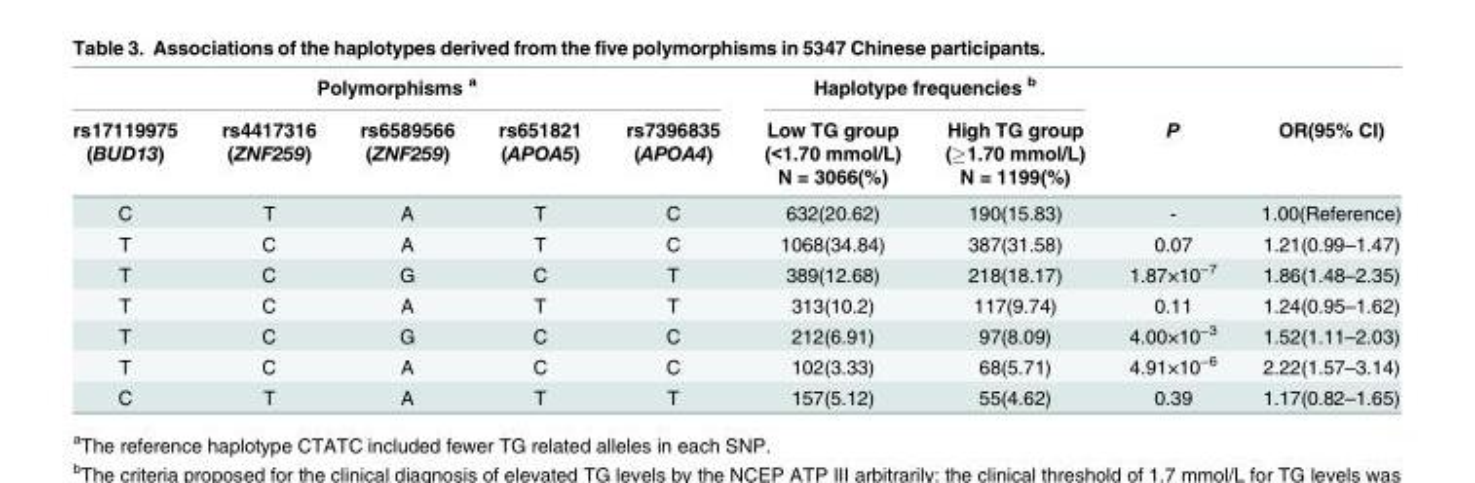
<table><thead><tr><td colspan="5">Polymorphisms <sup>a</sup></td><td colspan="2">Haplotype frequencies <sup>b</sup></td><td rowspan="2">P</td><td rowspan="2">OR(95% CI)</td></tr><tr><td>rs17119975 (BUD13)</td><td>rs4417316 (ZNF259)</td><td>rs6589566 (ZNF259)</td><td>rs651821 (APOA5)</td><td>rs7396835 (APOA4)</td><td>Low TG group (&lt;1.70 mmol/L) N = 3066(%)</td><td>High TG group (≥1.70 mmol/L) N = 1199(%)</td></tr></thead><tbody><tr><td>C</td><td>T</td><td>A</td><td>T</td><td>C</td><td>632(20.62)</td><td>190(15.83)</td><td>-</td><td>1.00(Reference)</td></tr><tr><td>T</td><td>C</td><td>A</td><td>T</td><td>C</td><td>1068(34.84)</td><td>387(31.58)</td><td>0.07</td><td>1.21(0.99–1.47)</td></tr><tr><td>T</td><td>C</td><td>G</td><td>C</td><td>T</td><td>389(12.68)</td><td>218(18.17)</td><td>1.87×10<sup>−7</sup></td><td>1.86(1.48–2.35)</td></tr><tr><td>T</td><td>C</td><td>A</td><td>T</td><td>T</td><td>313(10.2)</td><td>117(9.74)</td><td>0.11</td><td>1.24(0.95–1.62)</td></tr><tr><td>T</td><td>C</td><td>G</td><td>C</td><td>C</td><td>212(6.91)</td><td>97(8.09)</td><td>4.00×10<sup>−3</sup></td><td>1.52(1.11–2.03)</td></tr><tr><td>T</td><td>C</td><td>A</td><td>C</td><td>C</td><td>102(3.33)</td><td>68(5.71)</td><td>4.91×10<sup>−6</sup></td><td>2.22(1.57–3.14)</td></tr><tr><td>C</td><td>T</td><td>A</td><td>T</td><td>T</td><td>157(5.12)</td><td>55(4.62)</td><td>0.39</td><td>1.17(0.82–1.65)</td></tr></tbody></table>